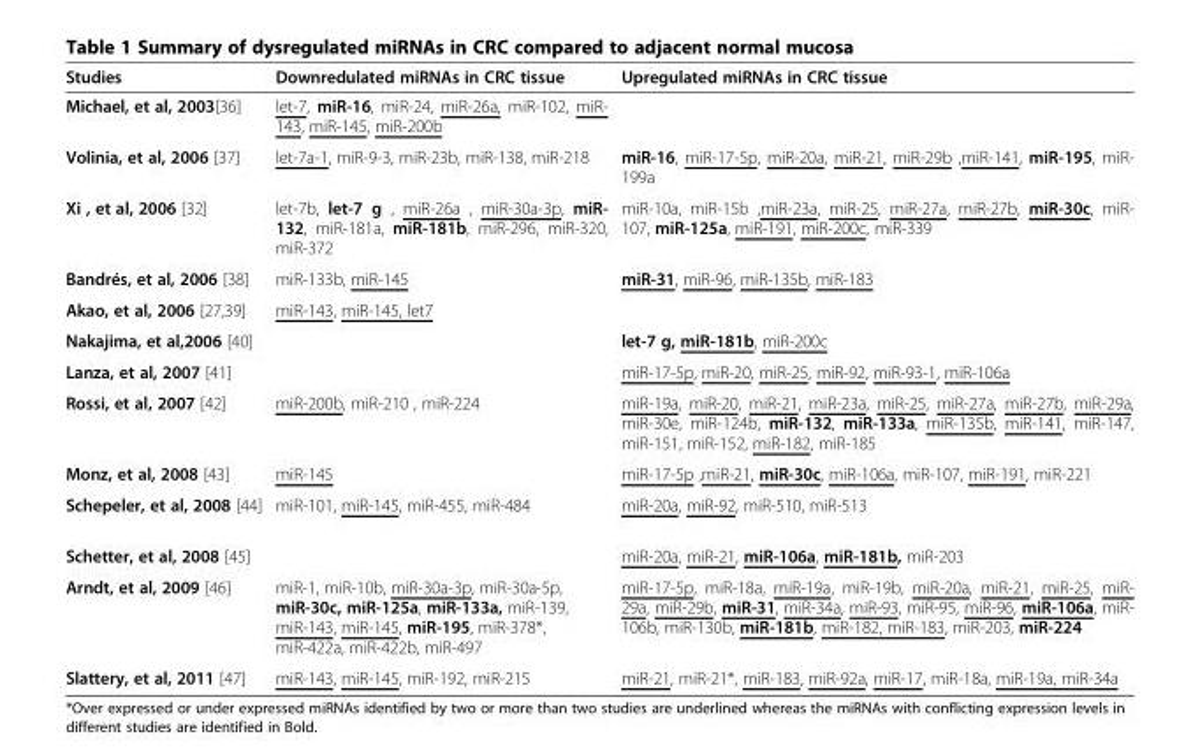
<table><thead><tr><td>Studies</td><td>Downredulated miRNAs in CRC tissue</td><td>Upregulated miRNAs in CRC tissue</td></tr></thead><tbody><tr><td>Michael, et al, 2003[36]</td><td>let-7, miR-16, miR-24, miR-26a, miR-102, miR- 143, miR-145, miR-200b</td><td></td></tr><tr><td>Volinia, et al, 2006 [37]</td><td>let-7a-1, miR-9-3, miR-23b, miR-138, miR-218</td><td>miR-16, miR-17-5p, miR-20a, miR-21, miR-29b ,miR-141, miR-195, miR- 199a</td></tr><tr><td>Xi , et al, 2006 [32]</td><td>let-7b, let-7 g , miR-26a , miR-30a-3p, miR- 132, miR-181a, miR-181b, miR-296, miR-320, miR-372</td><td>miR-10a, miR-15b ,miR-23a, miR-25, miR-27a, miR-27b, miR-30c, miR- 107, miR-125a, miR-191, miR-200c, miR-339</td></tr><tr><td>Bandrés, et al, 2006 [38]</td><td>miR-133b, miR-145</td><td>miR-31, miR-96, miR-135b, miR-183</td></tr><tr><td>Akao, et al, 2006 [27,39]</td><td>miR-143, miR-145, let7</td><td></td></tr><tr><td>Nakajima, et al,2006 [40]</td><td></td><td>let-7 g, miR-181b, miR-200c</td></tr><tr><td>Lanza, et al, 2007 [41]</td><td></td><td>miR-17-5p, miR-20, miR-25, miR-92, miR-93-1, miR-106a</td></tr><tr><td>Rossi, et al, 2007 [42]</td><td>miR-200b, miR-210 , miR-224</td><td>miR-19a, miR-20, miR-21, miR-23a, miR-25, miR-27a, miR-27b, miR-29a, miR-30e, miR-124b, miR-132, miR-133a, miR-135b, miR-141, miR-147, miR-151, miR-152, miR-182, miR-185</td></tr><tr><td>Monz, et al, 2008 [43]</td><td>miR-145</td><td>miR-17-5p ,miR-21, miR-30c, miR-106a, miR-107, miR-191, miR-221</td></tr><tr><td>Schepeler, et al, 2008 [44]</td><td>miR-101, miR-145, miR-455, miR-484</td><td>miR-20a, miR-92, miR-510, miR-513</td></tr><tr><td>Schetter, et al, 2008 [45]</td><td></td><td>miR-20a, miR-21, miR-106a, miR-181b, miR-203</td></tr><tr><td>Arndt, et al, 2009 [46]</td><td>miR-1, miR-10b, miR-30a-3p, miR-30a-5p, miR-30c, miR-125a, miR-133a, miR-139, miR-143, miR-145, miR-195, miR-378*, miR-422a, miR-422b, miR-497</td><td>miR-17-5p, miR-18a, miR-19a, miR-19b, miR-20a, miR-21, miR-25, miR- 29a, miR-29b, miR-31, miR-34a, miR-93, miR-95, miR-96, miR-106a, miR- 106b, miR-130b, miR-181b, miR-182, miR-183, miR-203, miR-224</td></tr><tr><td>Slattery, et al, 2011 [47]</td><td>miR-143, miR-145, miR-192, miR-215</td><td>miR-21, miR-21*, miR-183, miR-92a, miR-17, miR-18a, miR-19a, miR-34a</td></tr></tbody></table>